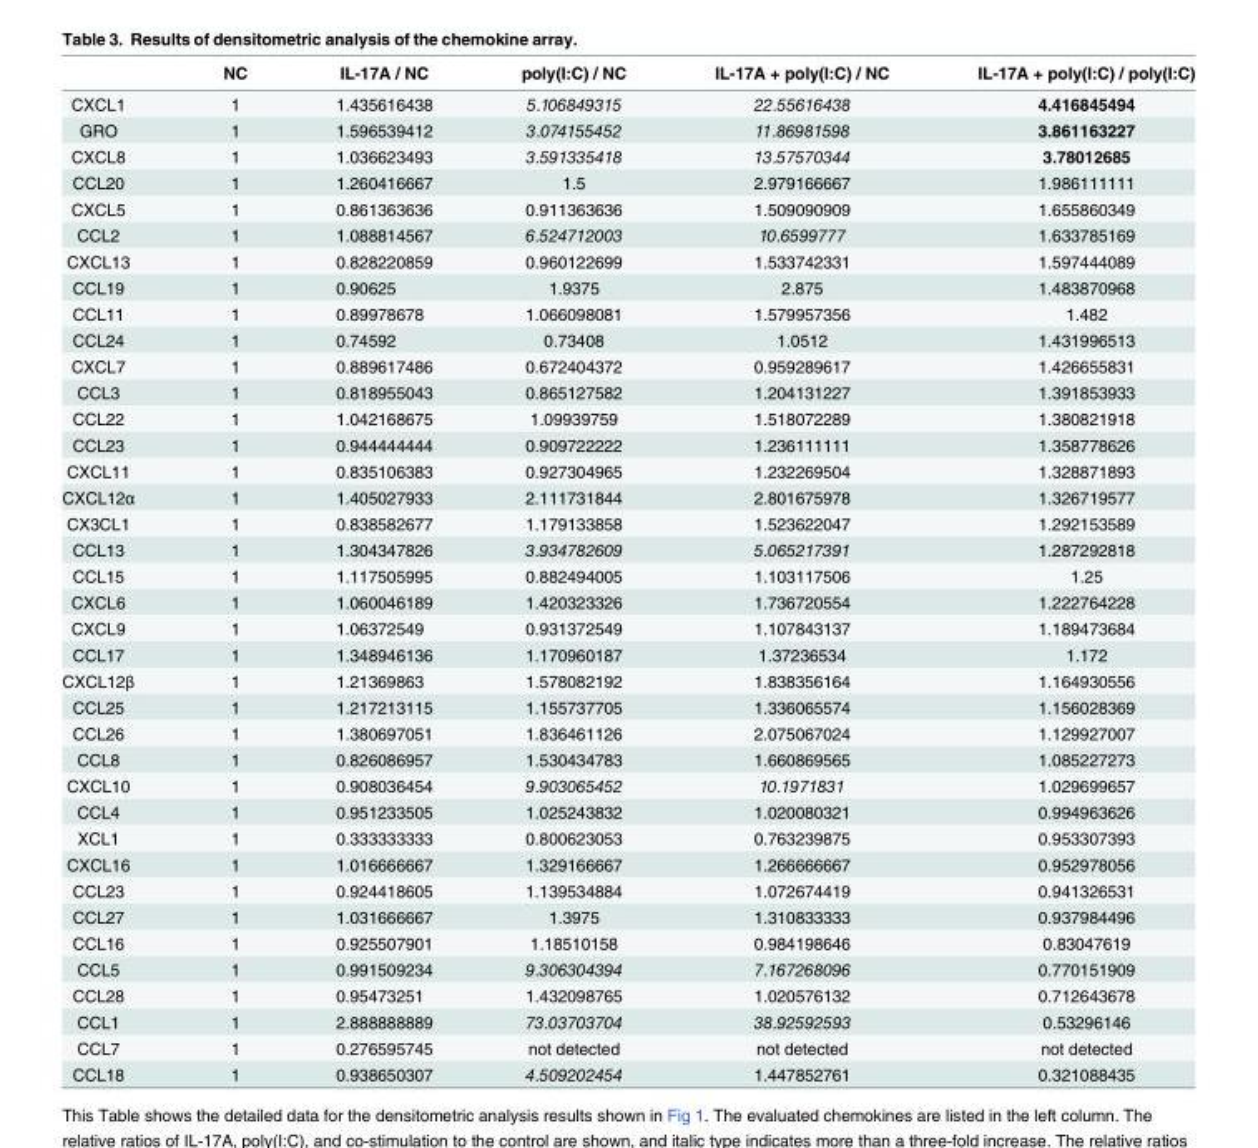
<table><thead><tr><td></td><td>NC</td><td>IL-17A / NC</td><td>poly(I:C) / NC</td><td>IL-17A + poly(I:C) / NC</td><td>IL-17A + poly(I:C) / poly(I:C)</td></tr></thead><tbody><tr><td>CXCL1</td><td>1</td><td>1.435616438</td><td>5.106849315</td><td>22.55616438</td><td>4.416845494</td></tr><tr><td>GRO</td><td>1</td><td>1.596539412</td><td>3.074155452</td><td>11.86981598</td><td>3.861163227</td></tr><tr><td>CXCL8</td><td>1</td><td>1.036623493</td><td>3.591335418</td><td>13.57570344</td><td>3.78012685</td></tr><tr><td>CCL20</td><td>1</td><td>1.260416667</td><td>1.5</td><td>2.979166667</td><td>1.986111111</td></tr><tr><td>CXCL5</td><td>1</td><td>0.861363636</td><td>0.911363636</td><td>1.509090909</td><td>1.655860349</td></tr><tr><td>CCL2</td><td>1</td><td>1.088814567</td><td>6.524712003</td><td>10.6599777</td><td>1.633785169</td></tr><tr><td>CXCL13</td><td>1</td><td>0.828220859</td><td>0.960122699</td><td>1.533742331</td><td>1.597444089</td></tr><tr><td>CCL19</td><td>1</td><td>0.90625</td><td>1.9375</td><td>2.875</td><td>1.483870968</td></tr><tr><td>CCL11</td><td>1</td><td>0.89978678</td><td>1.066098081</td><td>1.579957356</td><td>1.482</td></tr><tr><td>CCL24</td><td>1</td><td>0.74592</td><td>0.73408</td><td>1.0512</td><td>1.431996513</td></tr><tr><td>CXCL7</td><td>1</td><td>0.889617486</td><td>0.672404372</td><td>0.959289617</td><td>1.426655831</td></tr><tr><td>CCL3</td><td>1</td><td>0.818955043</td><td>0.865127582</td><td>1.204131227</td><td>1.391853933</td></tr><tr><td>CCL22</td><td>1</td><td>1.042168675</td><td>1.09939759</td><td>1.518072289</td><td>1.380821918</td></tr><tr><td>CCL23</td><td>1</td><td>0.944444444</td><td>0.909722222</td><td>1.236111111</td><td>1.358778626</td></tr><tr><td>CXCL11</td><td>1</td><td>0.835106383</td><td>0.927304965</td><td>1.232269504</td><td>1.328871893</td></tr><tr><td>CXCL12α</td><td>1</td><td>1.405027933</td><td>2.111731844</td><td>2.801675978</td><td>1.326719577</td></tr><tr><td>CX3CL1</td><td>1</td><td>0.838582677</td><td>1.179133858</td><td>1.523622047</td><td>1.292153589</td></tr><tr><td>CCL13</td><td>1</td><td>1.304347826</td><td>3.934782609</td><td>5.065217391</td><td>1.287292818</td></tr><tr><td>CCL15</td><td>1</td><td>1.117505995</td><td>0.882494005</td><td>1.103117506</td><td>1.25</td></tr><tr><td>CXCL6</td><td>1</td><td>1.060046189</td><td>1.420323326</td><td>1.736720554</td><td>1.222764228</td></tr><tr><td>CXCL9</td><td>1</td><td>1.06372549</td><td>0.931372549</td><td>1.107843137</td><td>1.189473684</td></tr><tr><td>CCL17</td><td>1</td><td>1.348946136</td><td>1.170960187</td><td>1.37236534</td><td>1.172</td></tr><tr><td>CXCL12β</td><td>1</td><td>1.21369863</td><td>1.578082192</td><td>1.838356164</td><td>1.164930556</td></tr><tr><td>CCL25</td><td>1</td><td>1.217213115</td><td>1.155737705</td><td>1.336065574</td><td>1.156028369</td></tr><tr><td>CCL26</td><td>1</td><td>1.380697051</td><td>1.836461126</td><td>2.075067024</td><td>1.129927007</td></tr><tr><td>CCL8</td><td>1</td><td>0.826086957</td><td>1.530434783</td><td>1.660869565</td><td>1.085227273</td></tr><tr><td>CXCL10</td><td>1</td><td>0.908036454</td><td>9.903065452</td><td>10.1971831</td><td>1.029699657</td></tr><tr><td>CCL4</td><td>1</td><td>0.951233505</td><td>1.025243832</td><td>1.020080321</td><td>0.994963626</td></tr><tr><td>XCL1</td><td>1</td><td>0.333333333</td><td>0.800623053</td><td>0.763239875</td><td>0.953307393</td></tr><tr><td>CXCL16</td><td>1</td><td>1.016666667</td><td>1.329166667</td><td>1.266666667</td><td>0.952978056</td></tr><tr><td>CCL23</td><td>1</td><td>0.924418605</td><td>1.139534884</td><td>1.072674419</td><td>0.941326531</td></tr><tr><td>CCL27</td><td>1</td><td>1.031666667</td><td>1.3975</td><td>1.310833333</td><td>0.937984496</td></tr><tr><td>CCL16</td><td>1</td><td>0.925507901</td><td>1.18510158</td><td>0.984198646</td><td>0.83047619</td></tr><tr><td>CCL5</td><td>1</td><td>0.991509234</td><td>9.306304394</td><td>7.167268096</td><td>0.770151909</td></tr><tr><td>CCL28</td><td>1</td><td>0.95473251</td><td>1.432098765</td><td>1.020576132</td><td>0.712643678</td></tr><tr><td>CCL1</td><td>1</td><td>2.888888889</td><td>73.03703704</td><td>38.92592593</td><td>0.53296146</td></tr><tr><td>CCL7</td><td>1</td><td>0.276595745</td><td>not detected</td><td>not detected</td><td>not detected</td></tr><tr><td>CCL18</td><td>1</td><td>0.938650307</td><td>4.509202454</td><td>1.447852761</td><td>0.321088435</td></tr></tbody></table>